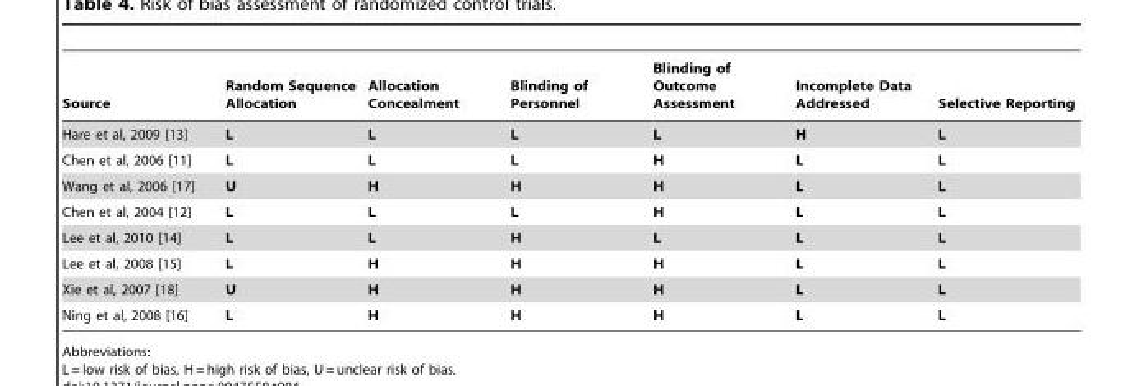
<table><thead><tr><td>Source</td><td>Random Sequence Allocation</td><td>Allocation Concealment</td><td>Blinding of Personnel</td><td>Blinding of Outcome Assessment</td><td>Incomplete Data Addressed</td><td>Selective Reporting</td></tr></thead><tbody><tr><td>Hare et al, 2009 [13]</td><td>L</td><td>L</td><td>L</td><td>L</td><td>H</td><td>L</td></tr><tr><td>Chen et al, 2006 [11]</td><td>L</td><td>L</td><td>L</td><td>H</td><td>L</td><td>L</td></tr><tr><td>Wang et al, 2006 [17]</td><td>U</td><td>H</td><td>H</td><td>H</td><td>L</td><td>L</td></tr><tr><td>Chen et al, 2004 [12]</td><td>L</td><td>L</td><td>L</td><td>H</td><td>L</td><td>L</td></tr><tr><td>Lee et al, 2010 [14]</td><td>L</td><td>L</td><td>H</td><td>L</td><td>L</td><td>L</td></tr><tr><td>Lee et al, 2008 [15]</td><td>L</td><td>H</td><td>H</td><td>H</td><td>L</td><td>L</td></tr><tr><td>Xie et al, 2007 [18]</td><td>U</td><td>H</td><td>H</td><td>H</td><td>L</td><td>L</td></tr><tr><td>Ning et al, 2008 [16]</td><td>L</td><td>H</td><td>H</td><td>H</td><td>L</td><td>L</td></tr></tbody></table>